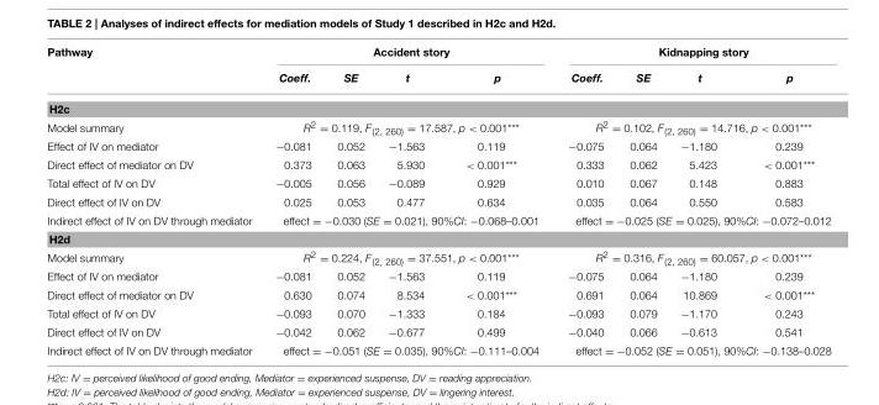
<table><thead><tr><td rowspan="2">Pathway</td><td colspan="4">Accident story</td><td colspan="4">Kidnapping story</td></tr><tr><td>Coeff.</td><td>SE</td><td>t</td><td>p</td><td>Coeff.</td><td>SE</td><td>t</td><td>p</td></tr></thead><tbody><tr><td colspan="9">H2c</td></tr><tr><td>Model summary</td><td colspan="4">R<sup>2</sup> = 0.119, F<sub>(2, 260)</sub> = 17.587, p &lt; 0.001***</td><td colspan="4">R<sup>2</sup> = 0.102, F<sub>(2, 260)</sub> = 14.716, p &lt; 0.001***</td></tr><tr><td>Effect of IV on mediator</td><td>−0.081</td><td>0.052</td><td>−1.563</td><td>0.119</td><td>−0.075</td><td>0.064</td><td>−1.180</td><td>0.239</td></tr><tr><td>Direct effect of mediator on DV</td><td>0.373</td><td>0.063</td><td>5.930</td><td>&lt; 0.001***</td><td>0.333</td><td>0.062</td><td>5.423</td><td>&lt; 0.001***</td></tr><tr><td>Total effect of IV on DV</td><td>−0.005</td><td>0.056</td><td>−0.089</td><td>0.929</td><td>0.010</td><td>0.067</td><td>0.148</td><td>0.883</td></tr><tr><td>Direct effect of IV on DV</td><td>0.025</td><td>0.053</td><td>0.477</td><td>0.634</td><td>0.035</td><td>0.064</td><td>0.550</td><td>0.583</td></tr><tr><td>Indirect effect of IV on DV through mediator</td><td colspan="4">effect = −0.030 (SE = 0.021), 90%CI: −0.068–0.001</td><td colspan="4">effect = −0.025 (SE = 0.025), 90%CI: −0.072–0.012</td></tr><tr><td colspan="9">H2d</td></tr><tr><td>Model summary</td><td colspan="4">R<sup>2</sup> = 0.224, F<sub>(2, 260)</sub> = 37.551, p &lt; 0.001***</td><td colspan="4">R<sup>2</sup> = 0.316, F<sub>(2, 260)</sub> = 60.057, p &lt; 0.001***</td></tr><tr><td>Effect of IV on mediator</td><td>−0.081</td><td>0.052</td><td>−1.563</td><td>0.119</td><td>−0.075</td><td>0.064</td><td>−1.180</td><td>0.239</td></tr><tr><td>Direct effect of mediator on DV</td><td>0.630</td><td>0.074</td><td>8.534</td><td>&lt; 0.001***</td><td>0.691</td><td>0.064</td><td>10.869</td><td>&lt; 0.001***</td></tr><tr><td>Total effect of IV on DV</td><td>−0.093</td><td>0.070</td><td>−1.333</td><td>0.184</td><td>−0.093</td><td>0.079</td><td>−1.170</td><td>0.243</td></tr><tr><td>Direct effect of IV on DV</td><td>−0.042</td><td>0.062</td><td>−0.677</td><td>0.499</td><td>−0.040</td><td>0.066</td><td>−0.613</td><td>0.541</td></tr><tr><td>Indirect effect of IV on DV through mediator</td><td colspan="4">effect = −0.051 (SE = 0.035), 90%CI: −0.111–0.004</td><td colspan="4">effect = −0.052 (SE = 0.051), 90%CI: −0.138–0.028</td></tr></tbody></table>